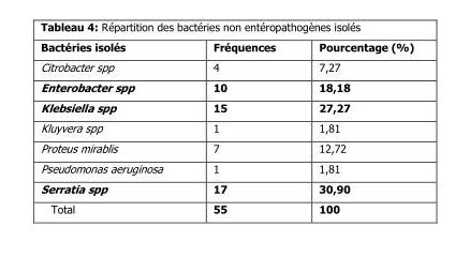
<table><thead><tr><td>Bactéries isolés</td><td>Fréquences</td><td>Pourcentage (%)</td></tr></thead><tbody><tr><td>Citrobacter spp</td><td>4</td><td>7,27</td></tr><tr><td>Enterobacter spp</td><td>10</td><td>18,18</td></tr><tr><td>Klebsiella spp</td><td>15</td><td>27,27</td></tr><tr><td>Kluyvera spp</td><td>1</td><td>1,81</td></tr><tr><td>Proteus mirablis</td><td>7</td><td>12,72</td></tr><tr><td>Pseudomonas aeruginosa</td><td>1</td><td>1,81</td></tr><tr><td>Serratia spp</td><td>17</td><td>30,90</td></tr><tr><td>Total</td><td>55</td><td>100</td></tr></tbody></table>